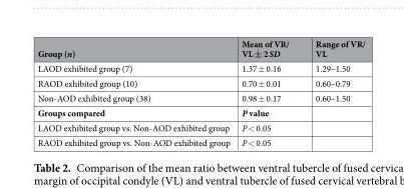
<table><thead><tr><td>Group (n)</td><td>Mean of VR/ VL ± 2 SD</td><td>Range of VR/ VL</td></tr></thead><tbody><tr><td>LAOD exhibited group (7)</td><td>1.37 ± 0.16</td><td>1.29–1.50</td></tr><tr><td>RAOD exhibited group (10)</td><td>0.70 ± 0.01</td><td>0.60–0.79</td></tr><tr><td>Non-AOD exhibited group (38)</td><td>0.98 ± 0.17</td><td>0.60–1.50</td></tr><tr><td>Groups compared</td><td>P value</td><td></td></tr><tr><td>LAOD exhibited group vs. Non-AOD exhibited group</td><td>P &lt; 0.05</td><td></td></tr><tr><td>RAOD exhibited group vs. Non-AOD exhibited group</td><td>P &lt; 0.05</td><td></td></tr></tbody></table>